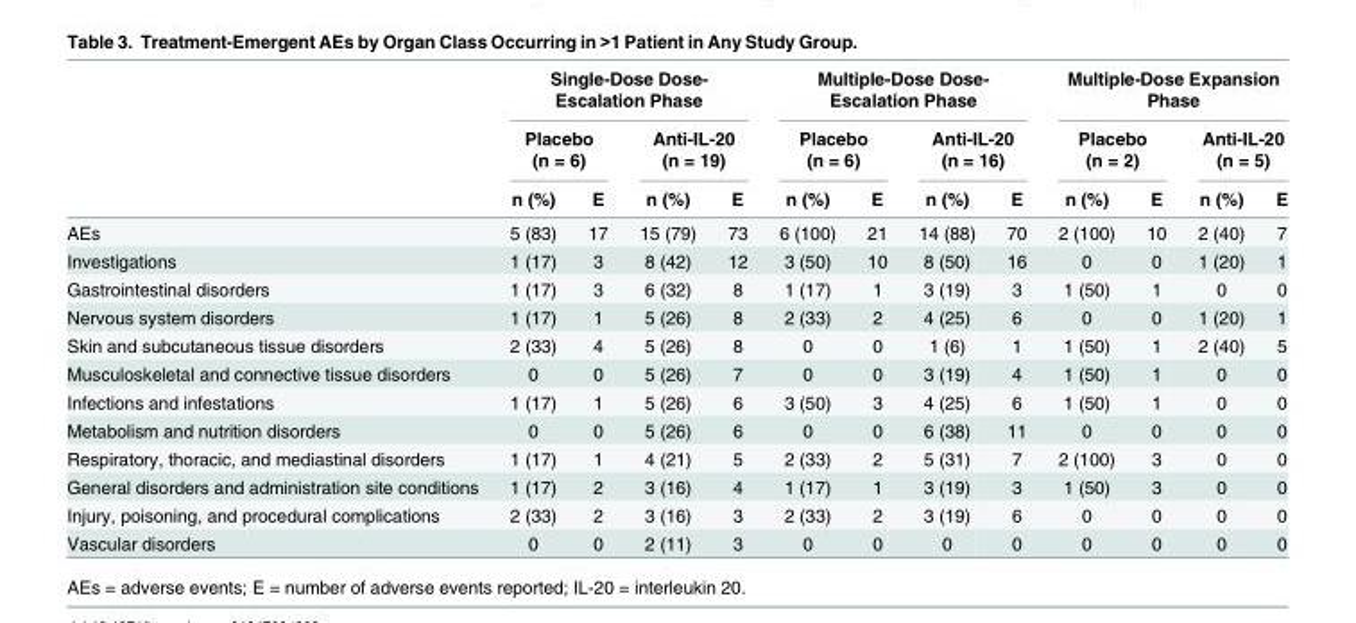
<table><thead><tr><td rowspan="3"></td><td colspan="4">Single-Dose Dose- Escalation Phase</td><td colspan="4">Multiple-Dose Dose- Escalation Phase</td><td colspan="4">Multiple-Dose Expansion Phase</td></tr><tr><td colspan="2">Placebo (n = 6)</td><td colspan="2">Anti-IL-20 (n = 19)</td><td colspan="2">Placebo (n = 6)</td><td colspan="2">Anti-IL-20 (n = 16)</td><td colspan="2">Placebo (n = 2)</td><td colspan="2">Anti-IL-20 (n = 5)</td></tr><tr><td>n (%)</td><td>E</td><td>n (%)</td><td>E</td><td>n (%)</td><td>E</td><td>n (%)</td><td>E</td><td>n (%)</td><td>E</td><td>n (%)</td><td>E</td></tr></thead><tbody><tr><td>AEs</td><td>5 (83)</td><td>17</td><td>15 (79)</td><td>73</td><td>6 (100)</td><td>21</td><td>14 (88)</td><td>70</td><td>2 (100)</td><td>10</td><td>2 (40)</td><td>7</td></tr><tr><td>Investigations</td><td>1 (17)</td><td>3</td><td>8 (42)</td><td>12</td><td>3 (50)</td><td>10</td><td>8 (50)</td><td>16</td><td>0</td><td>0</td><td>1 (20)</td><td>1</td></tr><tr><td>Gastrointestinal disorders</td><td>1 (17)</td><td>3</td><td>6 (32)</td><td>8</td><td>1 (17)</td><td>1</td><td>3 (19)</td><td>3</td><td>1 (50)</td><td>1</td><td>0</td><td>0</td></tr><tr><td>Nervous system disorders</td><td>1 (17)</td><td>1</td><td>5 (26)</td><td>8</td><td>2 (33)</td><td>2</td><td>4 (25)</td><td>6</td><td>0</td><td>0</td><td>1 (20)</td><td>1</td></tr><tr><td>Skin and subcutaneous tissue disorders</td><td>2 (33)</td><td>4</td><td>5 (26)</td><td>8</td><td>0</td><td>0</td><td>1 (6)</td><td>1</td><td>1 (50)</td><td>1</td><td>2 (40)</td><td>5</td></tr><tr><td>Musculoskeletal and connective tissue disorders</td><td>0</td><td>0</td><td>5 (26)</td><td>7</td><td>0</td><td>0</td><td>3 (19)</td><td>4</td><td>1 (50)</td><td>1</td><td>0</td><td>0</td></tr><tr><td>Infections and infestations</td><td>1 (17)</td><td>1</td><td>5 (26)</td><td>6</td><td>3 (50)</td><td>3</td><td>4 (25)</td><td>6</td><td>1 (50)</td><td>1</td><td>0</td><td>0</td></tr><tr><td>Metabolism and nutrition disorders</td><td>0</td><td>0</td><td>5 (26)</td><td>6</td><td>0</td><td>0</td><td>6 (38)</td><td>11</td><td>0</td><td>0</td><td>0</td><td>0</td></tr><tr><td>Respiratory, thoracic, and mediastinal disorders</td><td>1 (17)</td><td>1</td><td>4 (21)</td><td>5</td><td>2 (33)</td><td>2</td><td>5 (31)</td><td>7</td><td>2 (100)</td><td>3</td><td>0</td><td>0</td></tr><tr><td>General disorders and administration site conditions</td><td>1 (17)</td><td>2</td><td>3 (16)</td><td>4</td><td>1 (17)</td><td>1</td><td>3 (19)</td><td>3</td><td>1 (50)</td><td>3</td><td>0</td><td>0</td></tr><tr><td>Injury, poisoning, and procedural complications</td><td>2 (33)</td><td>2</td><td>3 (16)</td><td>3</td><td>2 (33)</td><td>2</td><td>3 (19)</td><td>6</td><td>0</td><td>0</td><td>0</td><td>0</td></tr><tr><td>Vascular disorders</td><td>0</td><td>0</td><td>2 (11)</td><td>3</td><td>0</td><td>0</td><td>0</td><td>0</td><td>0</td><td>0</td><td>0</td><td>0</td></tr></tbody></table>